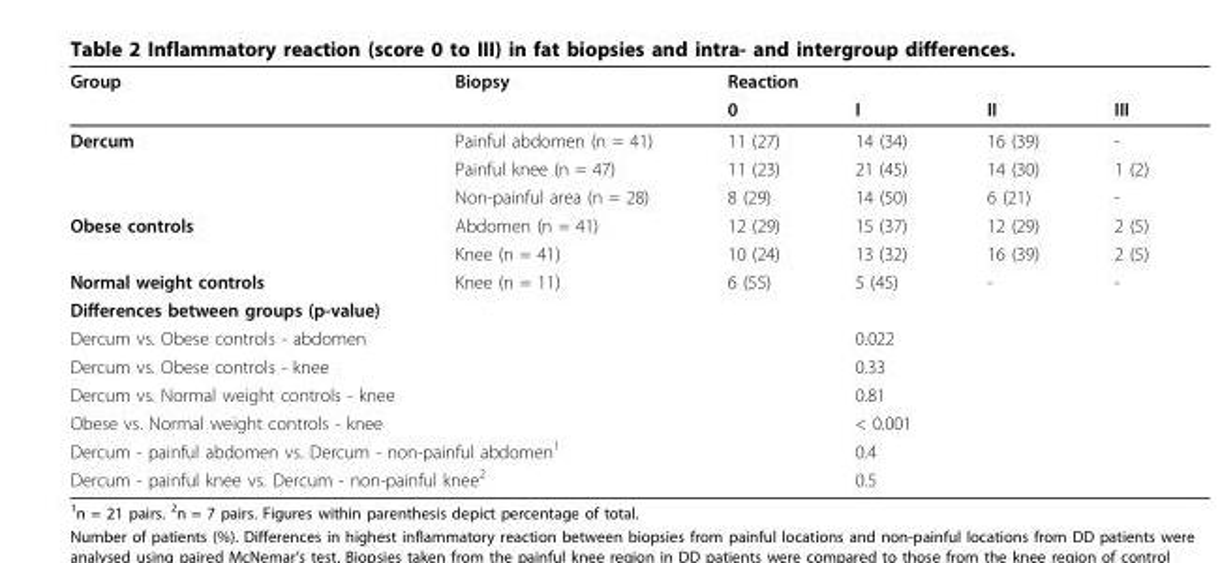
<table><thead><tr><td rowspan="2">Group</td><td rowspan="2">Biopsy</td><td colspan="2">Reaction</td><td rowspan="2">II</td><td rowspan="2">III</td></tr><tr><td>0</td><td>I</td></tr></thead><tbody><tr><td rowspan="3">Dercum</td><td>Painful abdomen (n = 41)</td><td>11 (27)</td><td>14 (34)</td><td>16 (39)</td><td>-</td></tr><tr><td>Painful knee (n = 47)</td><td>11 (23)</td><td>21 (45)</td><td>14 (30)</td><td>1 (2)</td></tr><tr><td>Non-painful area (n = 28)</td><td>8 (29)</td><td>14 (50)</td><td>6 (21)</td><td>-</td></tr><tr><td rowspan="2">Obese controls</td><td>Abdomen (n = 41)</td><td>12 (29)</td><td>15 (37)</td><td>12 (29)</td><td>2 (5)</td></tr><tr><td>Knee (n = 41)</td><td>10 (24)</td><td>13 (32)</td><td>16 (39)</td><td>2 (5)</td></tr><tr><td>Normal weight controls</td><td>Knee (n = 11)</td><td>6 (55)</td><td>5 (45)</td><td>-</td><td>-</td></tr><tr><td colspan="6">Differences between groups (p-value)</td></tr><tr><td colspan="3">Dercum vs. Obese controls - abdomen</td><td>0.022</td><td></td><td></td></tr><tr><td colspan="3">Dercum vs. Obese controls - knee</td><td>0.33</td><td></td><td></td></tr><tr><td colspan="3">Dercum vs. Normal weight controls - knee</td><td>0.81</td><td></td><td></td></tr><tr><td colspan="3">Obese vs. Normal weight controls - knee</td><td>&lt; 0.001</td><td></td><td></td></tr><tr><td colspan="3">Dercum - painful abdomen vs. Dercum - non-painful abdomen<sup>1</sup></td><td>0.4</td><td></td><td></td></tr><tr><td colspan="3">Dercum - painful knee vs. Dercum - non-painful knee<sup>2</sup></td><td>0.5</td><td></td><td></td></tr></tbody></table>